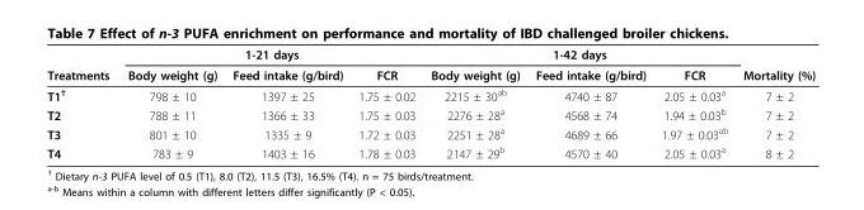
<table><thead><tr><td rowspan="2">Treatments</td><td colspan="3">1-21 days</td><td colspan="3">1-42 days</td><td rowspan="2">Mortality (%)</td></tr><tr><td>Body weight (g)</td><td>Feed intake (g/bird)</td><td>FCR</td><td>Body weight (g)</td><td>Feed intake (g/bird)</td><td>FCR</td></tr></thead><tbody><tr><td>T1<sup>†</sup></td><td>798 ± 10</td><td>1397 ± 25</td><td>1.75 ± 0.02</td><td>2215 ± 30<sup>ab</sup></td><td>4740 ± 87</td><td>2.05 ± 0.03<sup>a</sup></td><td>7 ± 2</td></tr><tr><td>T2</td><td>788 ± 11</td><td>1366 ± 33</td><td>1.75 ± 0.03</td><td>2276 ± 28<sup>a</sup></td><td>4568 ± 74</td><td>1.94 ± 0.03<sup>b</sup></td><td>7 ± 2</td></tr><tr><td>T3</td><td>801 ± 10</td><td>1335 ± 9</td><td>1.72 ± 0.03</td><td>2251 ± 28<sup>a</sup></td><td>4689 ± 66</td><td>1.97 ± 0.03<sup>ab</sup></td><td>7 ± 2</td></tr><tr><td>T4</td><td>783 ± 9</td><td>1403 ± 16</td><td>1.78 ± 0.03</td><td>2147 ± 29<sup>b</sup></td><td>4570 ± 40</td><td>2.05 ± 0.03<sup>a</sup></td><td>8 ± 2</td></tr></tbody></table>